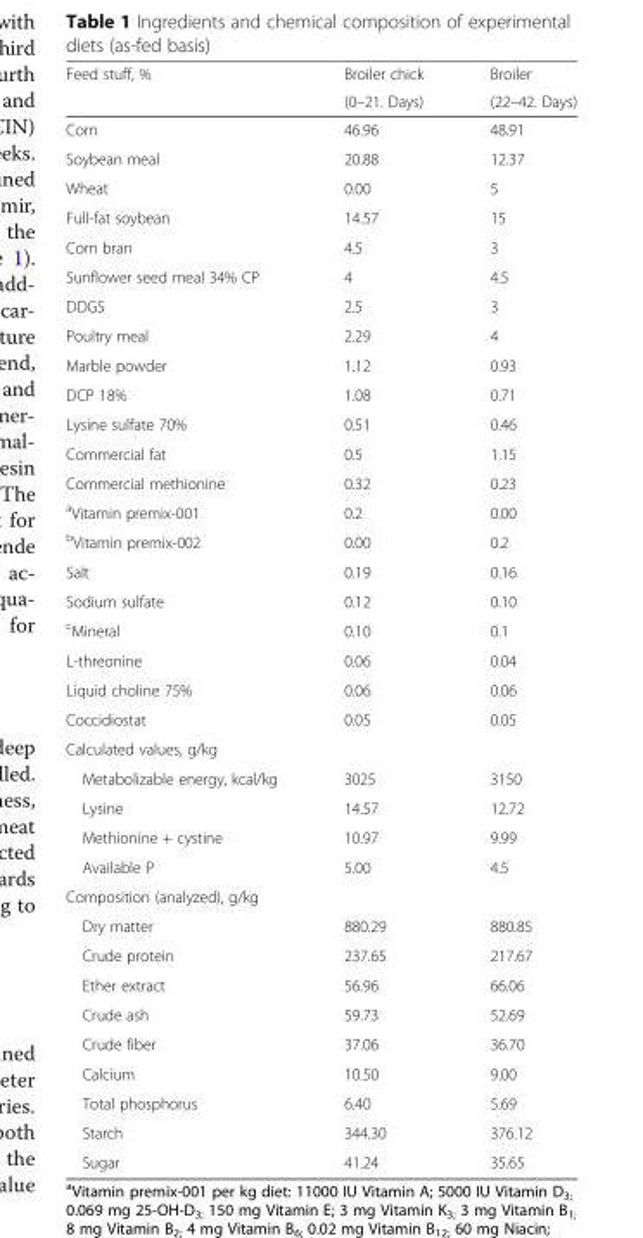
<table><thead><tr><td rowspan="2">Feed stuff, %</td><td rowspan="2">Broiler chick (0–21. Days)</td><td rowspan="2">Broiler (22–42. Days)</td></tr><tr></tr></thead><tbody><tr><td>Corn</td><td>46.96</td><td>48.91</td></tr><tr><td>Soybean meal</td><td>20.88</td><td>12.37</td></tr><tr><td>Wheat</td><td>0.00</td><td>5</td></tr><tr><td>Full-fat soybean</td><td>14.57</td><td>15</td></tr><tr><td>Corn bran</td><td>4.5</td><td>3</td></tr><tr><td>Sunflower seed meal 34% CP</td><td>4</td><td>4.5</td></tr><tr><td>DDGS</td><td>2.5</td><td>3</td></tr><tr><td>Poultry meal</td><td>2.29</td><td>4</td></tr><tr><td>Marble powder</td><td>1.12</td><td>0.93</td></tr><tr><td>DCP 18%</td><td>1.08</td><td>0.71</td></tr><tr><td>Lysine sulfate 70%</td><td>0.51</td><td>0.46</td></tr><tr><td>Commercial fat</td><td>0.5</td><td>1.15</td></tr><tr><td>Commercial methionine</td><td>0.32</td><td>0.23</td></tr><tr><td><sup>a</sup>Vitamin premix-001</td><td>0.2</td><td>0.00</td></tr><tr><td><sup>b</sup>Vitamin premix-002</td><td>0.00</td><td>0.2</td></tr><tr><td>Salt</td><td>0.19</td><td>0.16</td></tr><tr><td>Sodium sulfate</td><td>0.12</td><td>0.10</td></tr><tr><td><sup>c</sup>Mineral</td><td>0.10</td><td>0.1</td></tr><tr><td>L-threonine</td><td>0.06</td><td>0.04</td></tr><tr><td>Liquid choline 75%</td><td>0.06</td><td>0.06</td></tr><tr><td>Coccidiostat</td><td>0.05</td><td>0.05</td></tr><tr><td colspan="3">Calculated values, g/kg</td></tr><tr><td>Metabolizable energy, kcal/kg</td><td>3025</td><td>3150</td></tr><tr><td>Lysine</td><td>14.57</td><td>12.72</td></tr><tr><td>Methionine + cystine</td><td>10.97</td><td>9.99</td></tr><tr><td>Available P</td><td>5.00</td><td>4.5</td></tr><tr><td colspan="3">Composition (analyzed), g/kg</td></tr><tr><td>Dry matter</td><td>880.29</td><td>880.85</td></tr><tr><td>Crude protein</td><td>237.65</td><td>217.67</td></tr><tr><td>Ether extract</td><td>56.96</td><td>66.06</td></tr><tr><td>Crude ash</td><td>59.73</td><td>52.69</td></tr><tr><td>Crude fiber</td><td>37.06</td><td>36.70</td></tr><tr><td>Calcium</td><td>10.50</td><td>9.00</td></tr><tr><td>Total phosphorus</td><td>6.40</td><td>5.69</td></tr><tr><td>Starch</td><td>344.30</td><td>376.12</td></tr><tr><td>Sugar</td><td>41.24</td><td>35.65</td></tr></tbody></table>